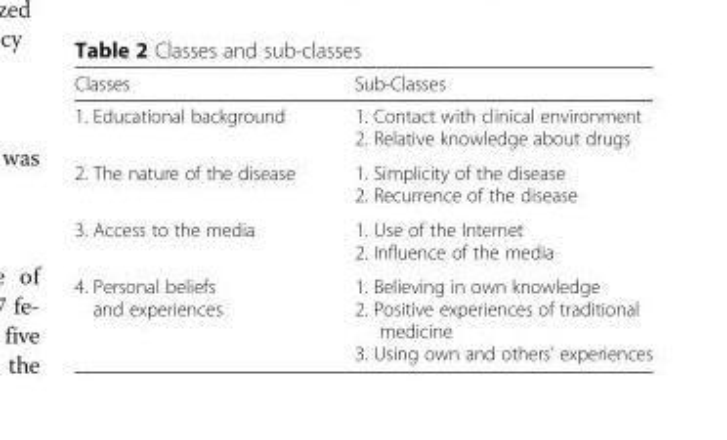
<table><thead><tr><td>Classes</td><td>Sub-Classes</td></tr></thead><tbody><tr><td>1. Educational background</td><td>1. Contact with clinical environment 2. Relative knowledge about drugs</td></tr><tr><td>2. The nature of the disease</td><td>1. Simplicity of the disease 2. Recurrence of the disease</td></tr><tr><td>3. Access to the media</td><td>1. Use of the Internet 2. Influence of the media</td></tr><tr><td>4. Personal beliefs and experiences</td><td>1. Believing in own knowledge 2. Positive experiences of traditional medicine 3. Using own and others’ experiences</td></tr></tbody></table>